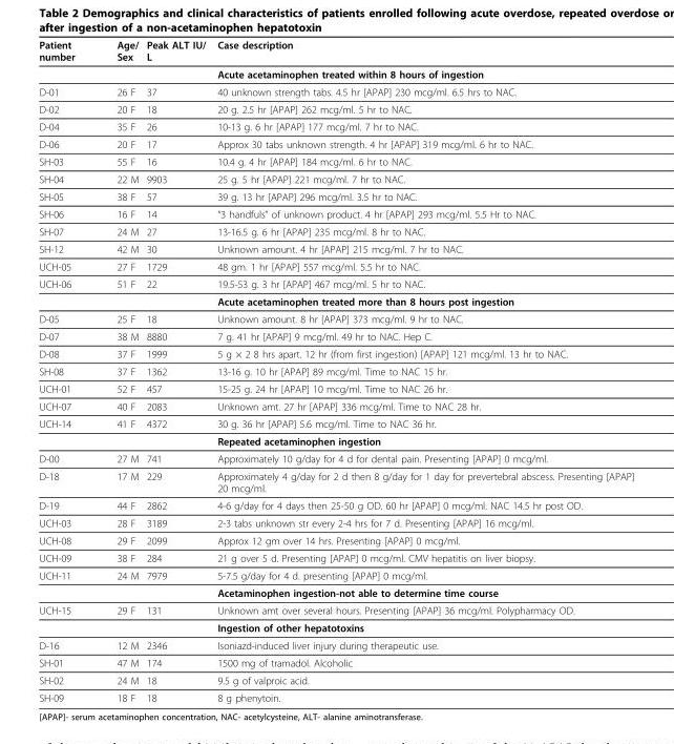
<table><thead><tr><td>Patient number</td><td>Age/ Sex</td><td>Peak ALT IU/ L</td><td>Case description</td></tr></thead><tbody><tr><td></td><td></td><td></td><td>Acute acetaminophen treated within 8 hours of ingestion</td></tr><tr><td>D-01</td><td>26 F</td><td>37</td><td>40 unknown strength tabs. 4.5 hr [APAP] 230 mcg/ml. 6.5 hrs to NAC.</td></tr><tr><td>D-02</td><td>20 F</td><td>18</td><td>20 g. 2.5 hr [APAP] 262 mcg/ml. 5 hr to NAC.</td></tr><tr><td>D-04</td><td>35 F</td><td>26</td><td>10-13 g. 6 hr [APAP] 177 mcg/ml. 7 hr to NAC.</td></tr><tr><td>D-06</td><td>20 F</td><td>17</td><td>Approx 30 tabs unknown strength. 4 hr [APAP] 319 mcg/ml. 6 hr to NAC.</td></tr><tr><td>SH-03</td><td>55 F</td><td>16</td><td>10.4 g. 4 hr [APAP] 184 mcg/ml. 6 hr to NAC.</td></tr><tr><td>SH-04</td><td>22 M</td><td>9903</td><td>25 g. 5 hr [APAP] 221 mcg/ml. 7 hr to NAC.</td></tr><tr><td>SH-05</td><td>38 F</td><td>57</td><td>39 g. 13 hr [APAP] 296 mcg/ml. 3.5 hr to NAC.</td></tr><tr><td>SH-06</td><td>16 F</td><td>14</td><td>“3 handfuls” of unknown product. 4 hr [APAP] 293 mcg/ml. 5.5 Hr to NAC.</td></tr><tr><td>SH-07</td><td>24 M</td><td>27</td><td>13-16.5 g. 6 hr [APAP] 235 mcg/ml. 8 hr to NAC.</td></tr><tr><td>SH-12</td><td>42 M</td><td>30</td><td>Unknown amount. 4 hr [APAP] 215 mcg/ml. 7 hr to NAC.</td></tr><tr><td>UCH-05</td><td>27 F</td><td>1729</td><td>48 gm. 1 hr [APAP] 557 mcg/ml. 5.5 hr to NAC.</td></tr><tr><td rowspan="2">UCH-06</td><td>51 F</td><td>22</td><td>19.5-53 g. 3 hr [APAP] 467 mcg/ml. 5 hr to NAC.</td></tr><tr><td></td><td></td><td>Acute acetaminophen treated more than 8 hours post ingestion</td></tr><tr><td>D-05</td><td>25 F</td><td>18</td><td>Unknown amount. 8 hr [APAP] 373 mcg/ml. 9 hr to NAC.</td></tr><tr><td>D-07</td><td>38 M</td><td>8880</td><td>7 g. 41 hr [APAP] 9 mcg/ml. 49 hr to NAC. Hep C.</td></tr><tr><td>D-08</td><td>37 F</td><td>1999</td><td>5 g × 2 8 hrs apart. 12 hr (from first ingestion) [APAP] 121 mcg/ml. 13 hr to NAC.</td></tr><tr><td>SH-08</td><td>37 F</td><td>1362</td><td>13-16 g. 10 hr [APAP] 89 mcg/ml. Time to NAC 15 hr.</td></tr><tr><td>UCH-01</td><td>52 F</td><td>457</td><td>15-25 g. 24 hr [APAP] 10 mcg/ml. Time to NAC 26 hr.</td></tr><tr><td>UCH-07</td><td>40 F</td><td>2083</td><td>Unknown amt. 27 hr [APAP] 336 mcg/ml. Time to NAC 28 hr.</td></tr><tr><td rowspan="2">UCH-14</td><td>41 F</td><td>4372</td><td>30 g. 36 hr [APAP] 5.6 mcg/ml. Time to NAC 36 hr.</td></tr><tr><td></td><td></td><td>Repeated acetaminophen ingestion</td></tr><tr><td>D-00</td><td>27 M</td><td>741</td><td>Approximately 10 g/day for 4 d for dental pain. Presenting [APAP] 0 mcg/ml.</td></tr><tr><td>D-18</td><td>17 M</td><td>229</td><td>Approximately 4 g/day for 2 d then 8 g/day for 1 day for prevertebral abscess. Presenting [APAP] 20 mcg/ml.</td></tr><tr><td>D-19</td><td>44 F</td><td>2862</td><td>4-6 g/day for 4 days then 25-50 g OD. 60 hr [APAP] 0 mcg/ml. NAC 14.5 hr post OD.</td></tr><tr><td>UCH-03</td><td>28 F</td><td>3189</td><td>2-3 tabs unknown str every 2-4 hrs for 7 d. Presenting [APAP] 16 mcg/ml.</td></tr><tr><td>UCH-08</td><td>29 F</td><td>2099</td><td>Approx 12 gm over 14 hrs. Presenting [APAP] 0 mcg/ml.</td></tr><tr><td>UCH-09</td><td>38 F</td><td>284</td><td>21 g over 5 d. Presenting [APAP] 0 mcg/ml. CMV hepatitis on liver biopsy.</td></tr><tr><td rowspan="2">UCH-11</td><td>24 M</td><td>7979</td><td>5-7.5 g/day for 4 d. presenting [APAP] 0 mcg/ml.</td></tr><tr><td></td><td></td><td>Acetaminophen ingestion-not able to determine time course</td></tr><tr><td rowspan="2">UCH-15</td><td>29 F</td><td>131</td><td>Unknown amt over several hours. Presenting [APAP] 36 mcg/ml. Polypharmacy OD.</td></tr><tr><td></td><td></td><td>Ingestion of other hepatotoxins</td></tr><tr><td>D-16</td><td>12 M</td><td>2346</td><td>Isoniazd-induced liver injury during therapeutic use.</td></tr><tr><td>SH-01</td><td>47 M</td><td>174</td><td>1500 mg of tramadol. Alcoholic</td></tr><tr><td>SH-02</td><td>24 M</td><td>18</td><td>9.5 g of valproic acid.</td></tr><tr><td>SH-09</td><td>18 F</td><td>18</td><td>8 g phenytoin.</td></tr></tbody></table>